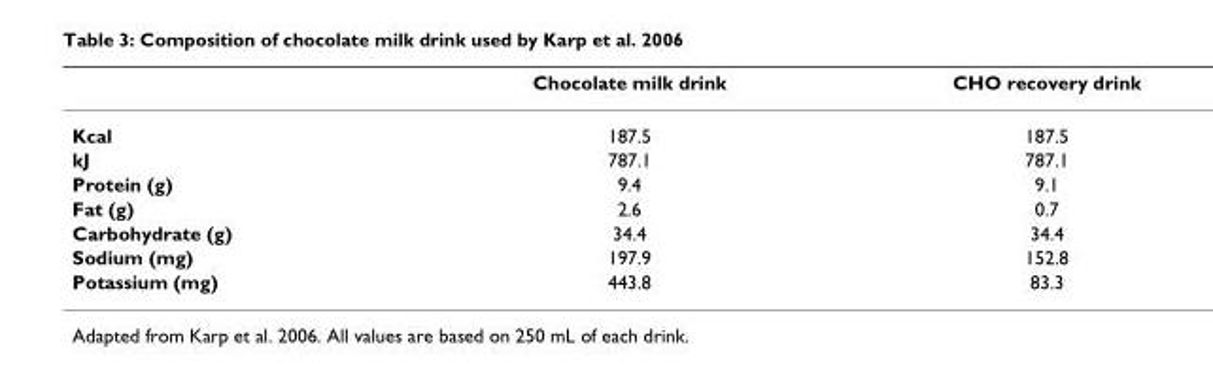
<table><thead><tr><td></td><td>Chocolate milk drink</td><td>CHO recovery drink</td></tr></thead><tbody><tr><td>Kcal</td><td>187.5</td><td>187.5</td></tr><tr><td>kJ</td><td>787.1</td><td>787.1</td></tr><tr><td>Protein (g)</td><td>9.4</td><td>9.1</td></tr><tr><td>Fat (g)</td><td>2.6</td><td>0.7</td></tr><tr><td>Carbohydrate (g)</td><td>34.4</td><td>34.4</td></tr><tr><td>Sodium (mg)</td><td>197.9</td><td>152.8</td></tr><tr><td>Potassium (mg)</td><td>443.8</td><td>83.3</td></tr></tbody></table>